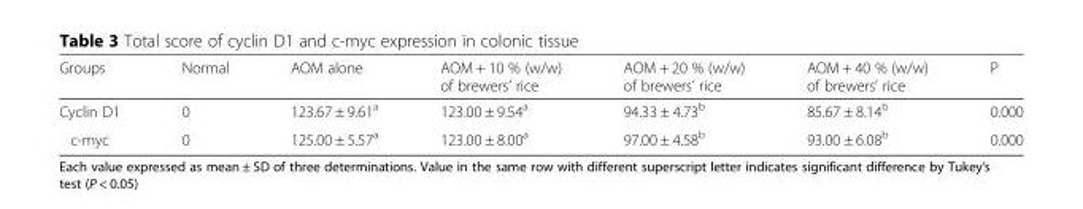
<table><thead><tr><td>Groups</td><td>Normal</td><td>AOM alone</td><td>AOM + 10 % (w/w) of brewers’ rice</td><td>AOM + 20 % (w/w) of brewers’ rice</td><td>AOM + 40 % (w/w) of brewers’ rice</td><td>P</td></tr></thead><tbody><tr><td>Cyclin D1</td><td>0</td><td>123.67 ± 9.61<sup>a</sup></td><td>123.00 ± 9.54<sup>a</sup></td><td>94.33 ± 4.73<sup>b</sup></td><td>85.67 ± 8.14<sup>b</sup></td><td>0.000</td></tr><tr><td>c-myc</td><td>0</td><td>125.00 ± 5.57<sup>a</sup></td><td>123.00 ± 8.00<sup>a</sup></td><td>97.00 ± 4.58<sup>b</sup></td><td>93.00 ± 6.08<sup>b</sup></td><td>0.000</td></tr></tbody></table>